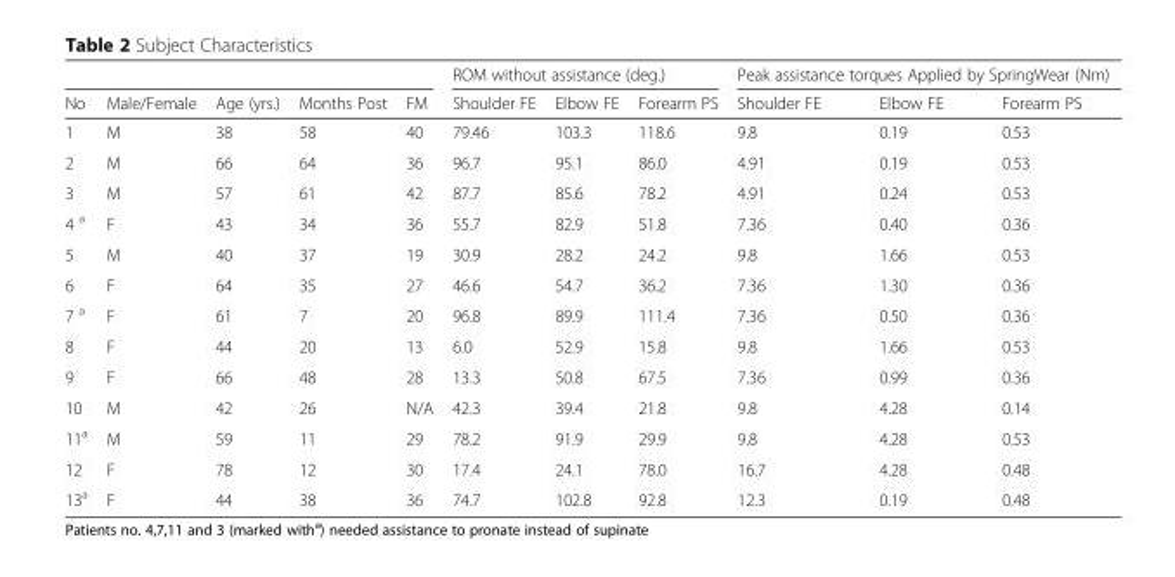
<table><thead><tr><td rowspan="2">No</td><td rowspan="2">Male/Female</td><td rowspan="2">Age (yrs.)</td><td rowspan="2">Months Post</td><td rowspan="2">FM</td><td colspan="3">ROM without assistance (deg.)</td><td colspan="3">Peak assistance torques Applied by SpringWear (Nm)</td></tr><tr><td>Shoulder FE</td><td>Elbow FE</td><td>Forearm PS</td><td>Shoulder FE</td><td>Elbow FE</td><td>Forearm PS</td></tr></thead><tbody><tr><td>1</td><td>M</td><td>38</td><td>58</td><td>40</td><td>79.46</td><td>103.3</td><td>118.6</td><td>9.8</td><td>0.19</td><td>0.53</td></tr><tr><td>2</td><td>M</td><td>66</td><td>64</td><td>36</td><td>96.7</td><td>95.1</td><td>86.0</td><td>4.91</td><td>0.19</td><td>0.53</td></tr><tr><td>3</td><td>M</td><td>57</td><td>61</td><td>42</td><td>87.7</td><td>85.6</td><td>78.2</td><td>4.91</td><td>0.24</td><td>0.53</td></tr><tr><td>4 <sup>a</sup></td><td>F</td><td>43</td><td>34</td><td>36</td><td>55.7</td><td>82.9</td><td>51.8</td><td>7.36</td><td>0.40</td><td>0.36</td></tr><tr><td>5</td><td>M</td><td>40</td><td>37</td><td>19</td><td>30.9</td><td>28.2</td><td>24.2</td><td>9.8</td><td>1.66</td><td>0.53</td></tr><tr><td>6</td><td>F</td><td>64</td><td>35</td><td>27</td><td>46.6</td><td>54.7</td><td>36.2</td><td>7.36</td><td>1.30</td><td>0.36</td></tr><tr><td>7 <sup>a</sup></td><td>F</td><td>61</td><td>7</td><td>20</td><td>96.8</td><td>89.9</td><td>111.4</td><td>7.36</td><td>0.50</td><td>0.36</td></tr><tr><td>8</td><td>F</td><td>44</td><td>20</td><td>13</td><td>6.0</td><td>52.9</td><td>15.8</td><td>9.8</td><td>1.66</td><td>0.53</td></tr><tr><td>9</td><td>F</td><td>66</td><td>48</td><td>28</td><td>13.3</td><td>50.8</td><td>67.5</td><td>7.36</td><td>0.99</td><td>0.36</td></tr><tr><td>10</td><td>M</td><td>42</td><td>26</td><td>N/A</td><td>42.3</td><td>39.4</td><td>21.8</td><td>9.8</td><td>4.28</td><td>0.14</td></tr><tr><td>11<sup>a</sup></td><td>M</td><td>59</td><td>11</td><td>29</td><td>78.2</td><td>91.9</td><td>29.9</td><td>9.8</td><td>4.28</td><td>0.53</td></tr><tr><td>12</td><td>F</td><td>78</td><td>12</td><td>30</td><td>17.4</td><td>24.1</td><td>78.0</td><td>16.7</td><td>4.28</td><td>0.48</td></tr><tr><td>13<sup>a</sup></td><td>F</td><td>44</td><td>38</td><td>36</td><td>74.7</td><td>102.8</td><td>92.8</td><td>12.3</td><td>0.19</td><td>0.48</td></tr></tbody></table>